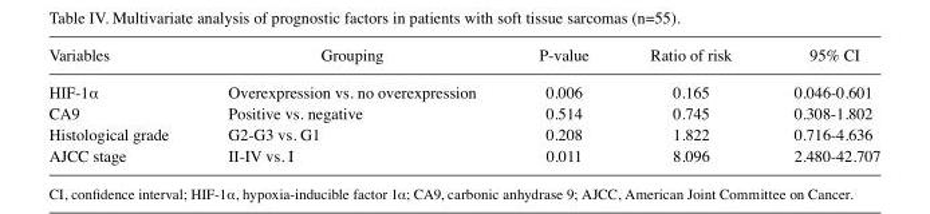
<table><thead><tr><td>Variables</td><td>Grouping</td><td>P‑value</td><td>Ratio of risk</td><td>95% CI</td></tr></thead><tbody><tr><td>HIF-1α</td><td>Overexpression vs. no overexpression</td><td>0.006</td><td>0.165</td><td>0.046‑0.601</td></tr><tr><td>CA9</td><td>Positive vs. negative</td><td>0.514</td><td>0.745</td><td>0.308‑1.802</td></tr><tr><td>Histological grade</td><td>G2‑G3 vs. G1</td><td>0.208</td><td>1.822</td><td>0.716‑4.636</td></tr><tr><td>AJCC stage</td><td>II‑IV vs. I</td><td>0.011</td><td>8.096</td><td>2.480‑42.707</td></tr></tbody></table>